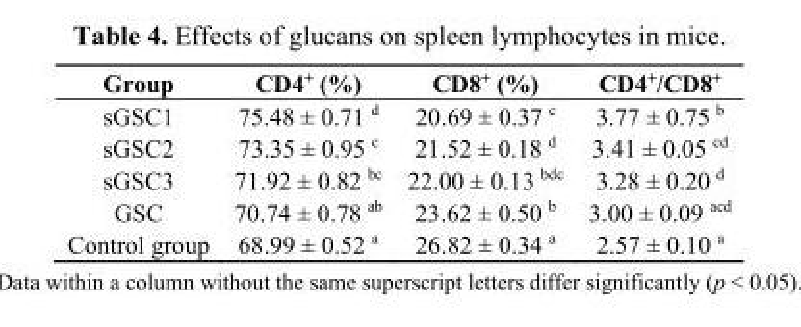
<table><thead><tr><td>Group</td><td>CD4<sup>+</sup> (%)</td><td>CD8<sup>+</sup> (%)</td><td>CD4<sup>+</sup>/CD8<sup>+</sup></td></tr></thead><tbody><tr><td>sGSC1</td><td>75.48 ± 0.71 <sup>d</sup></td><td>20.69 ± 0.37 <sup>c</sup></td><td>3.77 ± 0.75 <sup>b</sup></td></tr><tr><td>sGSC2</td><td>73.35 ± 0.95 <sup>c</sup></td><td>21.52 ± 0.18 <sup>d</sup></td><td>3.41 ± 0.05 <sup>cd</sup></td></tr><tr><td>sGSC3</td><td>71.92 ± 0.82 <sup>bc</sup></td><td>22.00 ± 0.13 <sup>bdc</sup></td><td>3.28 ± 0.20 <sup>d</sup></td></tr><tr><td>GSC</td><td>70.74 ± 0.78 <sup>ab</sup></td><td>23.62 ± 0.50 <sup>b</sup></td><td>3.00 ± 0.09 <sup>acd</sup></td></tr><tr><td>Control group</td><td>68.99 ± 0.52 <sup>a</sup></td><td>26.82 ± 0.34 <sup>a</sup></td><td>2.57 ± 0.10 <sup>a</sup></td></tr></tbody></table>